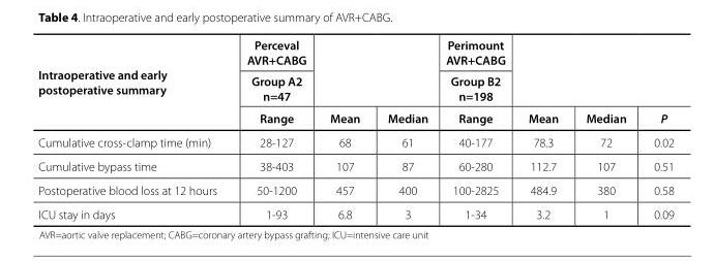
<table><thead><tr><td rowspan="3">Intraoperative and early postoperative summary</td><td rowspan="3">Perceval AVR+CABG Group A2 n=47 Range</td><td rowspan="3">Mean</td><td rowspan="3">Median</td><td rowspan="3">Perimount AVR+CABG Group B2 n=198 Range</td><td rowspan="3">Mean</td><td rowspan="3">Median</td><td rowspan="3">P</td></tr><tr></tr><tr></tr></thead><tbody><tr><td>Cumulative cross-clamp time (min)</td><td>28-127</td><td>68</td><td>61</td><td>40-177</td><td>78.3</td><td>72</td><td>0.02</td></tr><tr><td>Cumulative bypass time</td><td>38-403</td><td>107</td><td>87</td><td>60-280</td><td>112.7</td><td>107</td><td>0.51</td></tr><tr><td>Postoperative blood loss at 12 hours</td><td>50-1200</td><td>457</td><td>400</td><td>100-2825</td><td>484.9</td><td>380</td><td>0.58</td></tr><tr><td>ICU stay in days</td><td>1-93</td><td>6.8</td><td>3</td><td>1-34</td><td>3.2</td><td>1</td><td>0.09</td></tr></tbody></table>